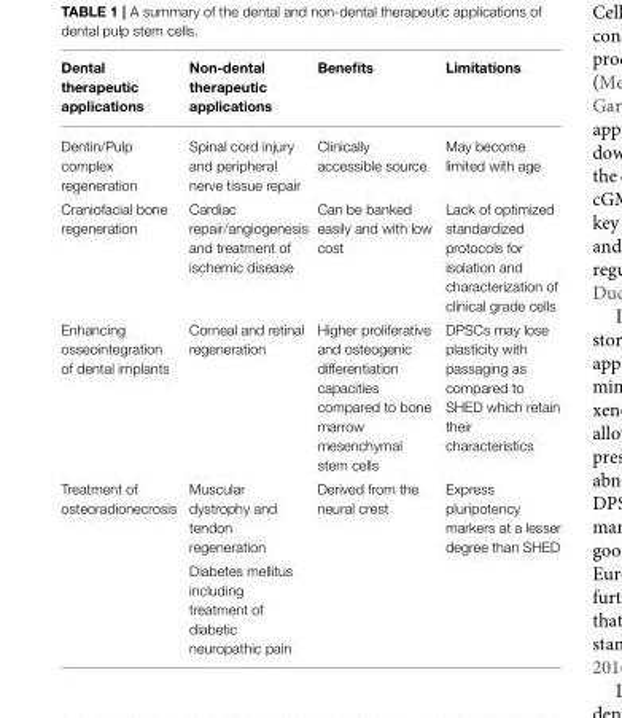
<table><thead><tr><td>Dental therapeutic applications</td><td>Non-dental therapeutic applications</td><td>Benefits</td><td>Limitations</td></tr></thead><tbody><tr><td>Dentin/Pulp complex regeneration</td><td>Spinal cord injury and peripheral nerve tissue repair</td><td>Clinically accessible source</td><td>May become limited with age</td></tr><tr><td>Craniofacial bone regeneration</td><td>Cardiac repair/angiogenesis and treatment of ischemic disease</td><td>Can be banked easily and with low cost</td><td>Lack of optimized standardized protocols for isolation and characterization of clinical grade cells</td></tr><tr><td>Enhancing osseointegration of dental implants</td><td>Corneal and retinal regeneration</td><td>Higher proliferative and osteogenic differentiation capacities compared to bone marrow mesenchymal stem cells</td><td>DPSCs may lose plasticity with passaging as compared to SHED which retain their characteristics</td></tr><tr><td rowspan="2">Treatment of osteoradionecrosis</td><td>Muscular dystrophy and tendon regeneration</td><td>Derived from the neural crest</td><td>Express pluripotency markers at a lesser degree than SHED</td></tr><tr><td>Diabetes mellitus including treatment of diabetic neuropathic pain</td><td></td><td></td></tr></tbody></table>